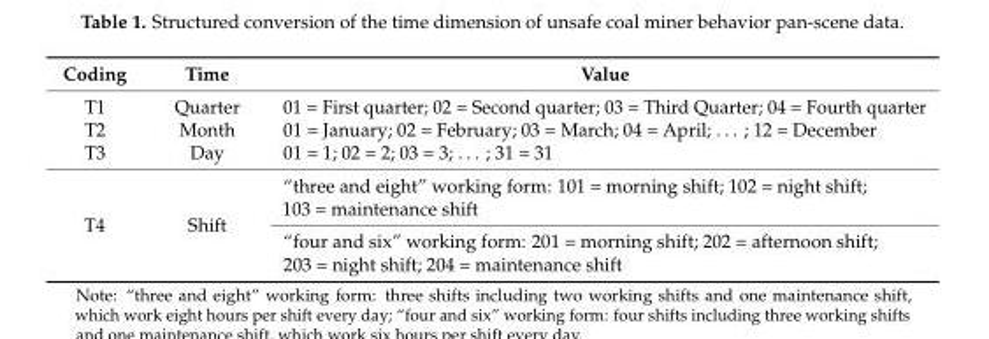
<table><thead><tr><td>Coding</td><td>Time</td><td>Value</td></tr></thead><tbody><tr><td>T1</td><td>Quarter</td><td>01 = First quarter; 02 = Second quarter; 03 = Third Quarter; 04 = Fourth quarter</td></tr><tr><td>T2</td><td>Month</td><td>01 = January; 02 = February; 03 = March; 04 = April; . . . ; 12 = December</td></tr><tr><td>T3</td><td>Day</td><td>01 = 1; 02 = 2; 03 = 3; . . . ; 31 = 31</td></tr><tr><td rowspan="2">T4</td><td rowspan="2">Shift</td><td>“three and eight” working form: 101 = morning shift; 102 = night shift; 103 = maintenance shift</td></tr><tr><td>“four and six” working form: 201 = morning shift; 202 = afternoon shift; 203 = night shift; 204 = maintenance shift</td></tr></tbody></table>